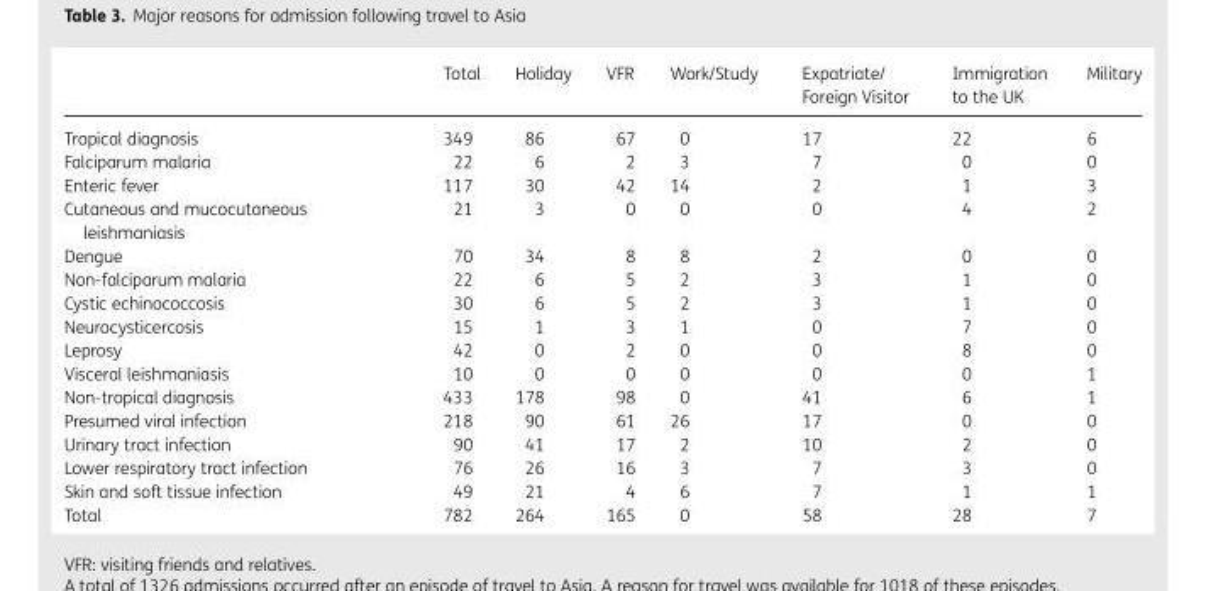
<table><thead><tr><td></td><td>Total</td><td>Holiday</td><td>VFR</td><td>Work/Study</td><td>Expatriate/ Foreign Visitor</td><td>Immigration to the UK</td><td>Military</td></tr></thead><tbody><tr><td>Tropical diagnosis</td><td>349</td><td>86</td><td>67</td><td>0</td><td>17</td><td>22</td><td>6</td></tr><tr><td>Falciparum malaria</td><td>22</td><td>6</td><td>2</td><td>3</td><td>7</td><td>0</td><td>0</td></tr><tr><td>Enteric fever</td><td>117</td><td>30</td><td>42</td><td>14</td><td>2</td><td>1</td><td>3</td></tr><tr><td>Cutaneous and mucocutaneous leishmaniasis</td><td>21</td><td>3</td><td>0</td><td>0</td><td>0</td><td>4</td><td>2</td></tr><tr><td>Dengue</td><td>70</td><td>34</td><td>8</td><td>8</td><td>2</td><td>0</td><td>0</td></tr><tr><td>Non-falciparum malaria</td><td>22</td><td>6</td><td>5</td><td>2</td><td>3</td><td>1</td><td>0</td></tr><tr><td>Cystic echinococcosis</td><td>30</td><td>6</td><td>5</td><td>2</td><td>3</td><td>1</td><td>0</td></tr><tr><td>Neurocysticercosis</td><td>15</td><td>1</td><td>3</td><td>1</td><td>0</td><td>7</td><td>0</td></tr><tr><td>Leprosy</td><td>42</td><td>0</td><td>2</td><td>0</td><td>0</td><td>8</td><td>0</td></tr><tr><td>Visceral leishmaniasis</td><td>10</td><td>0</td><td>0</td><td>0</td><td>0</td><td>0</td><td>1</td></tr><tr><td>Non-tropical diagnosis</td><td>433</td><td>178</td><td>98</td><td>0</td><td>41</td><td>6</td><td>1</td></tr><tr><td>Presumed viral infection</td><td>218</td><td>90</td><td>61</td><td>26</td><td>17</td><td>0</td><td>0</td></tr><tr><td>Urinary tract infection</td><td>90</td><td>41</td><td>17</td><td>2</td><td>10</td><td>2</td><td>0</td></tr><tr><td>Lower respiratory tract infection</td><td>76</td><td>26</td><td>16</td><td>3</td><td>7</td><td>3</td><td>0</td></tr><tr><td>Skin and soft tissue infection</td><td>49</td><td>21</td><td>4</td><td>6</td><td>7</td><td>1</td><td>1</td></tr><tr><td>Total</td><td>782</td><td>264</td><td>165</td><td>0</td><td>58</td><td>28</td><td>7</td></tr></tbody></table>